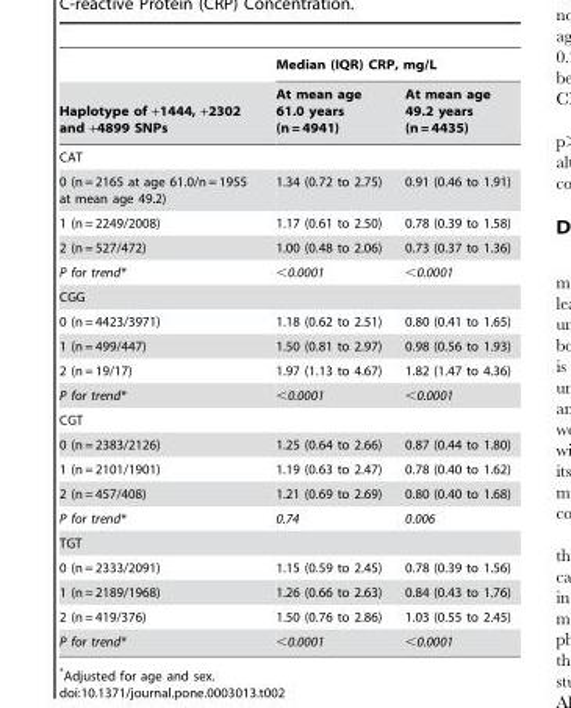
<table><thead><tr><td rowspan="2">Haplotype of +1444, +2302 and +4899 SNPs</td><td colspan="2">Median (IQR) CRP, mg/L</td></tr><tr><td>At mean age 61.0 years (n = 4941)</td><td>At mean age 49.2 years (n = 4435)</td></tr></thead><tbody><tr><td colspan="3">CAT</td></tr><tr><td>0 (n = 2165 at age 61.0/n = 1955 at mean age 49.2)</td><td>1.34 (0.72 to 2.75)</td><td>0.91 (0.46 to 1.91)</td></tr><tr><td>1 (n = 2249/2008)</td><td>1.17 (0.61 to 2.50)</td><td>0.78 (0.39 to 1.58)</td></tr><tr><td>2 (n = 527/472)</td><td>1.00 (0.48 to 2.06)</td><td>0.73 (0.37 to 1.36)</td></tr><tr><td>P for trend*</td><td>&lt;0.0001</td><td>&lt;0.0001</td></tr><tr><td colspan="3">CGG</td></tr><tr><td>0 (n = 4423/3971)</td><td>1.18 (0.62 to 2.51)</td><td>0.80 (0.41 to 1.65)</td></tr><tr><td>1 (n = 499/447)</td><td>1.50 (0.81 to 2.97)</td><td>0.98 (0.56 to 1.93)</td></tr><tr><td>2 (n = 19/17)</td><td>1.97 (1.13 to 4.67)</td><td>1.82 (1.47 to 4.36)</td></tr><tr><td>P for trend*</td><td>&lt;0.0001</td><td>&lt;0.0001</td></tr><tr><td colspan="3">CGT</td></tr><tr><td>0 (n = 2383/2126)</td><td>1.25 (0.64 to 2.66)</td><td>0.87 (0.44 to 1.80)</td></tr><tr><td>1 (n = 2101/1901)</td><td>1.19 (0.63 to 2.47)</td><td>0.78 (0.40 to 1.62)</td></tr><tr><td>2 (n = 457/408)</td><td>1.21 (0.69 to 2.69)</td><td>0.80 (0.40 to 1.68)</td></tr><tr><td>P for trend*</td><td>0.74</td><td>0.006</td></tr><tr><td colspan="3">TGT</td></tr><tr><td>0 (n = 2333/2091)</td><td>1.15 (0.59 to 2.45)</td><td>0.78 (0.39 to 1.56)</td></tr><tr><td>1 (n = 2189/1968)</td><td>1.26 (0.66 to 2.63)</td><td>0.84 (0.43 to 1.76)</td></tr><tr><td>2 (n = 419/376)</td><td>1.50 (0.76 to 2.86)</td><td>1.03 (0.55 to 2.45)</td></tr><tr><td>P for trend*</td><td>&lt;0.0001</td><td>&lt;0.0001</td></tr></tbody></table>